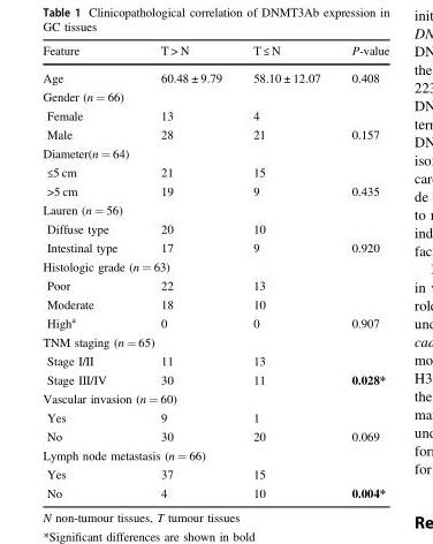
<table><thead><tr><td>Feature</td><td>T &gt; N</td><td>T ≤ N</td><td>P-value</td></tr></thead><tbody><tr><td>Age</td><td>60.48 ± 9.79</td><td>58.10 ± 12.07</td><td>0.408</td></tr><tr><td colspan="4">Gender (n = 66)</td></tr><tr><td>Female</td><td>13</td><td>4</td><td></td></tr><tr><td>Male</td><td>28</td><td>21</td><td>0.157</td></tr><tr><td colspan="4">Diameter(n = 64)</td></tr><tr><td>≤5 cm</td><td>21</td><td>15</td><td></td></tr><tr><td>&gt;5 cm</td><td>19</td><td>9</td><td>0.435</td></tr><tr><td colspan="4">Lauren (n = 56)</td></tr><tr><td>Diffuse type</td><td>20</td><td>10</td><td></td></tr><tr><td>Intestinal type</td><td>17</td><td>9</td><td>0.920</td></tr><tr><td colspan="4">Histologic grade (n = 63)</td></tr><tr><td>Poor</td><td>22</td><td>13</td><td></td></tr><tr><td>Moderate</td><td>18</td><td>10</td><td></td></tr><tr><td>High<sup>a</sup></td><td>0</td><td>0</td><td>0.907</td></tr><tr><td colspan="4">TNM staging (n = 65)</td></tr><tr><td>Stage I/II</td><td>11</td><td>13</td><td></td></tr><tr><td>Stage III/IV</td><td>30</td><td>11</td><td>0.028*</td></tr><tr><td colspan="4">Vascular invasion (n = 60)</td></tr><tr><td>Yes</td><td>9</td><td>1</td><td></td></tr><tr><td>No</td><td>30</td><td>20</td><td>0.069</td></tr><tr><td colspan="4">Lymph node metastasis (n = 66)</td></tr><tr><td>Yes</td><td>37</td><td>15</td><td></td></tr><tr><td>No</td><td>4</td><td>10</td><td>0.004*</td></tr></tbody></table>